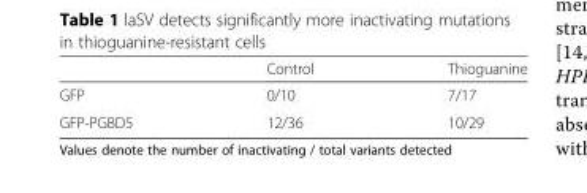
<table><thead><tr><td></td><td>Control</td><td>Thioguanine</td></tr></thead><tbody><tr><td>GFP</td><td>0/10</td><td>7/17</td></tr><tr><td>GFP-PGBD5</td><td>12/36</td><td>10/29</td></tr></tbody></table>